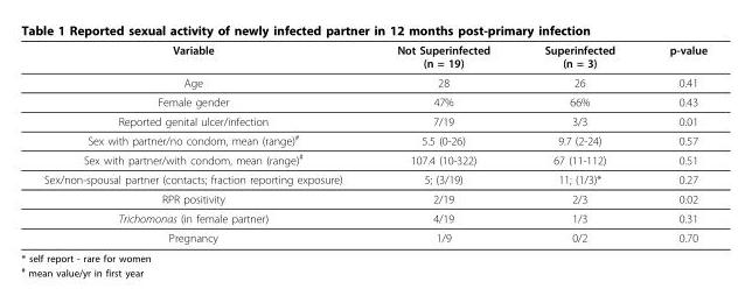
<table><thead><tr><td>Variable</td><td>Not Superinfected (n = 19)</td><td>Superinfected (n = 3)</td><td>p-value</td></tr></thead><tbody><tr><td>Age</td><td>28</td><td>26</td><td>0.41</td></tr><tr><td>Female gender</td><td>47%</td><td>66%</td><td>0.43</td></tr><tr><td>Reported genital ulcer/infection</td><td>7/19</td><td>3/3</td><td>0.01</td></tr><tr><td>Sex with partner/no condom, mean (range)<sup>#</sup></td><td>5.5 (0-26)</td><td>9.7 (2-24)</td><td>0.57</td></tr><tr><td>Sex with partner/with condom, mean (range)<sup>#</sup></td><td>107.4 (10-322)</td><td>67 (11-112)</td><td>0.51</td></tr><tr><td>Sex/non-spousal partner (contacts; fraction reporting exposure)</td><td>5; (3/19)</td><td>11; (1/3)*</td><td>0.27</td></tr><tr><td>RPR positivity</td><td>2/19</td><td>2/3</td><td>0.02</td></tr><tr><td>Trichomonas (in female partner)</td><td>4/19</td><td>1/3</td><td>0.31</td></tr><tr><td>Pregnancy</td><td>1/9</td><td>0/2</td><td>0.70</td></tr></tbody></table>